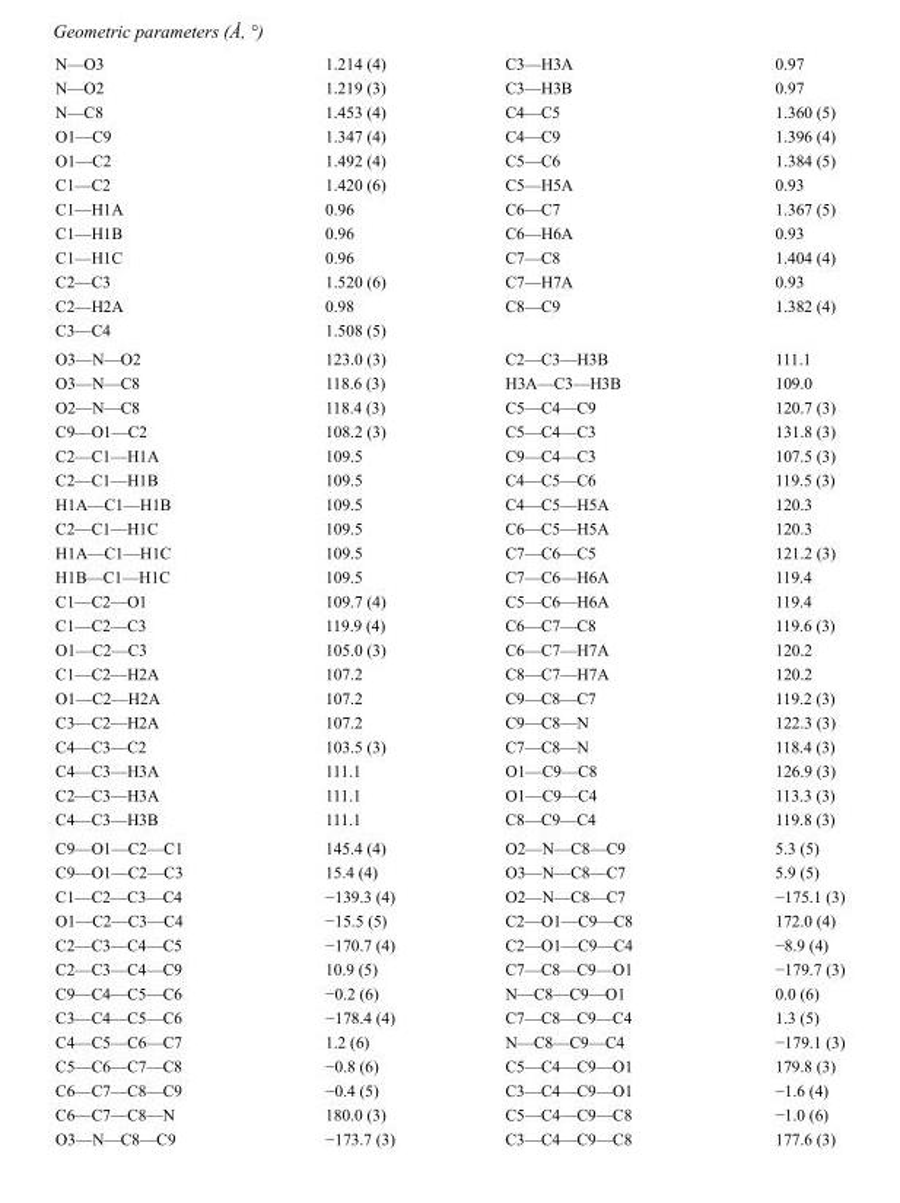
<table><tbody><tr><td>N—O3</td><td>1.214 (4)</td><td>C3—H3A</td><td>0.97</td></tr><tr><td>N—O2</td><td>1.219 (3)</td><td>C3—H3B</td><td>0.97</td></tr><tr><td>N—C8</td><td>1.453 (4)</td><td>C4—C5</td><td>1.360 (5)</td></tr><tr><td>O1—C9</td><td>1.347 (4)</td><td>C4—C9</td><td>1.396 (4)</td></tr><tr><td>O1—C2</td><td>1.492 (4)</td><td>C5—C6</td><td>1.384 (5)</td></tr><tr><td>C1—C2</td><td>1.420 (6)</td><td>C5—H5A</td><td>0.93</td></tr><tr><td>C1—H1A</td><td>0.96</td><td>C6—C7</td><td>1.367 (5)</td></tr><tr><td>C1—H1B</td><td>0.96</td><td>C6—H6A</td><td>0.93</td></tr><tr><td>C1—H1C</td><td>0.96</td><td>C7—C8</td><td>1.404 (4)</td></tr><tr><td>C2—C3</td><td>1.520 (6)</td><td>C7—H7A</td><td>0.93</td></tr><tr><td>C2—H2A</td><td>0.98</td><td>C8—C9</td><td>1.382 (4)</td></tr><tr><td>C3—C4</td><td>1.508 (5)</td><td></td><td></td></tr><tr><td>O3—N—O2</td><td>123.0 (3)</td><td>C2—C3—H3B</td><td>111.1</td></tr><tr><td>O3—N—C8</td><td>118.6 (3)</td><td>H3A—C3—H3B</td><td>109.0</td></tr><tr><td>O2—N—C8</td><td>118.4 (3)</td><td>C5—C4—C9</td><td>120.7 (3)</td></tr><tr><td>C9—O1—C2</td><td>108.2 (3)</td><td>C5—C4—C3</td><td>131.8 (3)</td></tr><tr><td>C2—C1—H1A</td><td>109.5</td><td>C9—C4—C3</td><td>107.5 (3)</td></tr><tr><td>C2—C1—H1B</td><td>109.5</td><td>C4—C5—C6</td><td>119.5 (3)</td></tr><tr><td>H1A—C1—H1B</td><td>109.5</td><td>C4—C5—H5A</td><td>120.3</td></tr><tr><td>C2—C1—H1C</td><td>109.5</td><td>C6—C5—H5A</td><td>120.3</td></tr><tr><td>H1A—C1—H1C</td><td>109.5</td><td>C7—C6—C5</td><td>121.2 (3)</td></tr><tr><td>H1B—C1—H1C</td><td>109.5</td><td>C7—C6—H6A</td><td>119.4</td></tr><tr><td>C1—C2—O1</td><td>109.7 (4)</td><td>C5—C6—H6A</td><td>119.4</td></tr><tr><td>C1—C2—C3</td><td>119.9 (4)</td><td>C6—C7—C8</td><td>119.6 (3)</td></tr><tr><td>O1—C2—C3</td><td>105.0 (3)</td><td>C6—C7—H7A</td><td>120.2</td></tr><tr><td>C1—C2—H2A</td><td>107.2</td><td>C8—C7—H7A</td><td>120.2</td></tr><tr><td>O1—C2—H2A</td><td>107.2</td><td>C9—C8—C7</td><td>119.2 (3)</td></tr><tr><td>C3—C2—H2A</td><td>107.2</td><td>C9—C8—N</td><td>122.3 (3)</td></tr><tr><td>C4—C3—C2</td><td>103.5 (3)</td><td>C7—C8—N</td><td>118.4 (3)</td></tr><tr><td>C4—C3—H3A</td><td>111.1</td><td>O1—C9—C8</td><td>126.9 (3)</td></tr><tr><td>C2—C3—H3A</td><td>111.1</td><td>O1—C9—C4</td><td>113.3 (3)</td></tr><tr><td>C4—C3—H3B</td><td>111.1</td><td>C8—C9—C4</td><td>119.8 (3)</td></tr><tr><td>C9—O1—C2—C1</td><td>145.4 (4)</td><td>O2—N—C8—C9</td><td>5.3 (5)</td></tr><tr><td>C9—O1—C2—C3</td><td>15.4 (4)</td><td>O3—N—C8—C7</td><td>5.9 (5)</td></tr><tr><td>C1—C2—C3—C4</td><td>−139.3 (4)</td><td>O2—N—C8—C7</td><td>−175.1 (3)</td></tr><tr><td>O1—C2—C3—C4</td><td>−15.5 (5)</td><td>C2—O1—C9—C8</td><td>172.0 (4)</td></tr><tr><td>C2—C3—C4—C5</td><td>−170.7 (4)</td><td>C2—O1—C9—C4</td><td>−8.9 (4)</td></tr><tr><td>C2—C3—C4—C9</td><td>10.9 (5)</td><td>C7—C8—C9—O1</td><td>−179.7 (3)</td></tr><tr><td>C9—C4—C5—C6</td><td>−0.2 (6)</td><td>N—C8—C9—O1</td><td>0.0 (6)</td></tr><tr><td>C3—C4—C5—C6</td><td>−178.4 (4)</td><td>C7—C8—C9—C4</td><td>1.3 (5)</td></tr><tr><td>C4—C5—C6—C7</td><td>1.2 (6)</td><td>N—C8—C9—C4</td><td>−179.1 (3)</td></tr><tr><td>C5—C6—C7—C8</td><td>−0.8 (6)</td><td>C5—C4—C9—O1</td><td>179.8 (3)</td></tr><tr><td>C6—C7—C8—C9</td><td>−0.4 (5)</td><td>C3—C4—C9—O1</td><td>−1.6 (4)</td></tr><tr><td>C6—C7—C8—N</td><td>180.0 (3)</td><td>C5—C4—C9—C8</td><td>−1.0 (6)</td></tr><tr><td>O3—N—C8—C9</td><td>−173.7 (3)</td><td>C3—C4—C9—C8</td><td>177.6 (3)</td></tr></tbody></table>